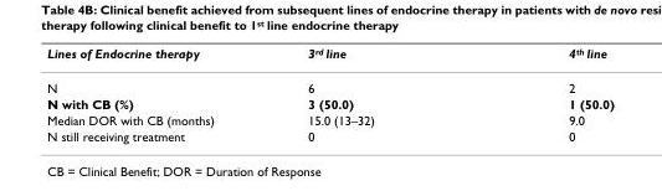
<table><thead><tr><td>Lines of Endocrine therapy</td><td>3<sup>rd</sup> line</td><td>4<sup>th</sup> line</td></tr></thead><tbody><tr><td>N</td><td>6</td><td>2</td></tr><tr><td>N with CB (%)</td><td>3 (50.0)</td><td>1 (50.0)</td></tr><tr><td>Median DOR with CB (months)</td><td>15.0 (13–32)</td><td>9.0</td></tr><tr><td>N still receiving treatment</td><td>0</td><td>0</td></tr></tbody></table>